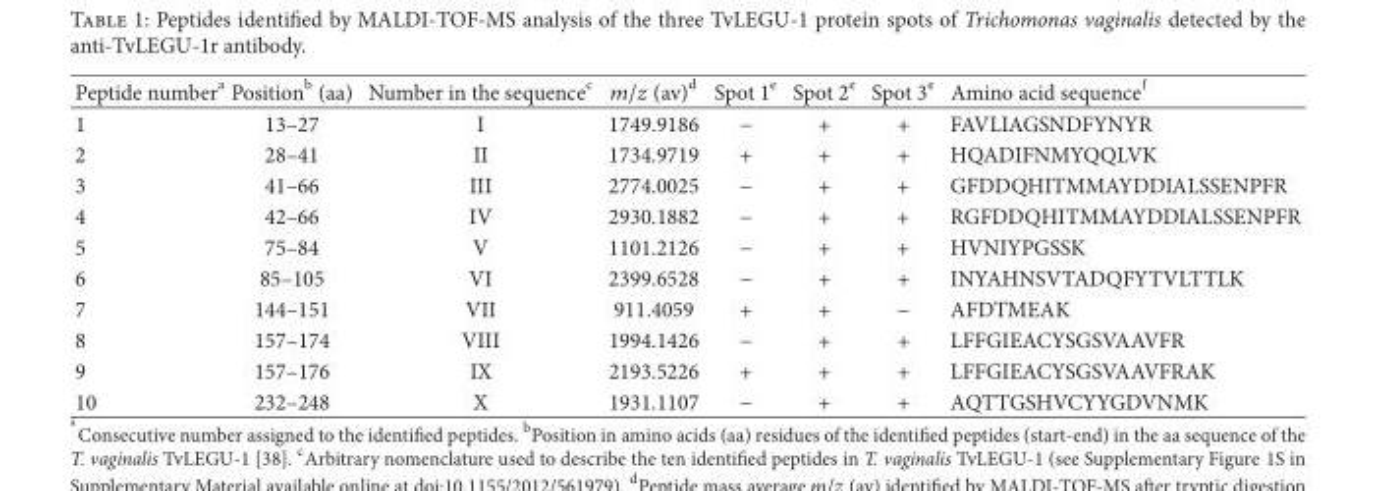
<table><thead><tr><td>Peptide number<sup>a</sup></td><td>Position<sup>b</sup> (aa)</td><td>Number in the sequence<sup>c</sup></td><td>𝑚𝑚𝑚𝑚𝑚 (av)d</td><td>Spot 1<sup>e</sup></td><td>Spot 2<sup>e</sup></td><td>Spot 3<sup>e</sup></td><td>Amino acid sequence<sup>f</sup></td></tr></thead><tbody><tr><td>1</td><td>13–27</td><td>I</td><td>1749.9186</td><td>−</td><td>+</td><td>+</td><td>FAVLIAGSNDFYNYR</td></tr><tr><td>2</td><td>28–41</td><td>II</td><td>1734.9719</td><td>+</td><td>+</td><td>+</td><td>HQADIFNMYQQLVK</td></tr><tr><td>3</td><td>41–66</td><td>III</td><td>2774.0025</td><td>−</td><td>+</td><td>+</td><td>GFDDQHITMMAYDDIALSSENPFR</td></tr><tr><td>4</td><td>42–66</td><td>IV</td><td>2930.1882</td><td>−</td><td>+</td><td>+</td><td>RGFDDQHITMMAYDDIALSSENPFR</td></tr><tr><td>5</td><td>75–84</td><td>V</td><td>1101.2126</td><td>−</td><td>+</td><td>+</td><td>HVNIYPGSSK</td></tr><tr><td>6</td><td>85–105</td><td>VI</td><td>2399.6528</td><td>−</td><td>+</td><td>+</td><td>INYAHNSVTADQFYTVLTTLK</td></tr><tr><td>7</td><td>144–151</td><td>VII</td><td>911.4059</td><td>+</td><td>+</td><td>−</td><td>AFDTMEAK</td></tr><tr><td>8</td><td>157–174</td><td>VIII</td><td>1994.1426</td><td>−</td><td>+</td><td>+</td><td>LFFGIEACYSGSVAAVFR</td></tr><tr><td>9</td><td>157–176</td><td>IX</td><td>2193.5226</td><td>+</td><td>+</td><td>+</td><td>LFFGIEACYSGSVAAVFRAK</td></tr><tr><td>10</td><td>232–248</td><td>X</td><td>1931.1107</td><td>−</td><td>+</td><td>+</td><td>AQTTGSHVCYYGDVNMK</td></tr></tbody></table>